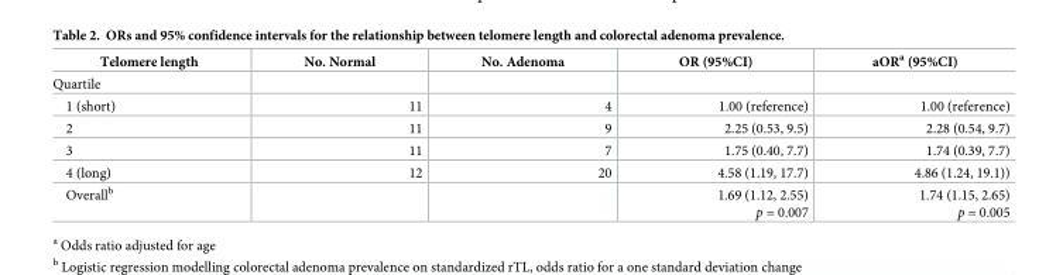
<table><thead><tr><td>Telomere length</td><td>No. Normal</td><td>No. Adenoma</td><td>OR (95%CI)</td><td>aOR<sup>a</sup> (95%CI)</td></tr></thead><tbody><tr><td colspan="5">Quartile</td></tr><tr><td>1 (short)</td><td>11</td><td>4</td><td>1.00 (reference)</td><td>1.00 (reference)</td></tr><tr><td>2</td><td>11</td><td>9</td><td>2.25 (0.53, 9.5)</td><td>2.28 (0.54, 9.7)</td></tr><tr><td>3</td><td>11</td><td>7</td><td>1.75 (0.40, 7.7)</td><td>1.74 (0.39, 7.7)</td></tr><tr><td>4 (long)</td><td>12</td><td>20</td><td>4.58 (1.19, 17.7)</td><td>4.86 (1.24, 19.1))</td></tr><tr><td>Overall<sup>b</sup></td><td></td><td></td><td>1.69 (1.12, 2.55) p = 0.007</td><td>1.74 (1.15, 2.65) p = 0.005</td></tr></tbody></table>